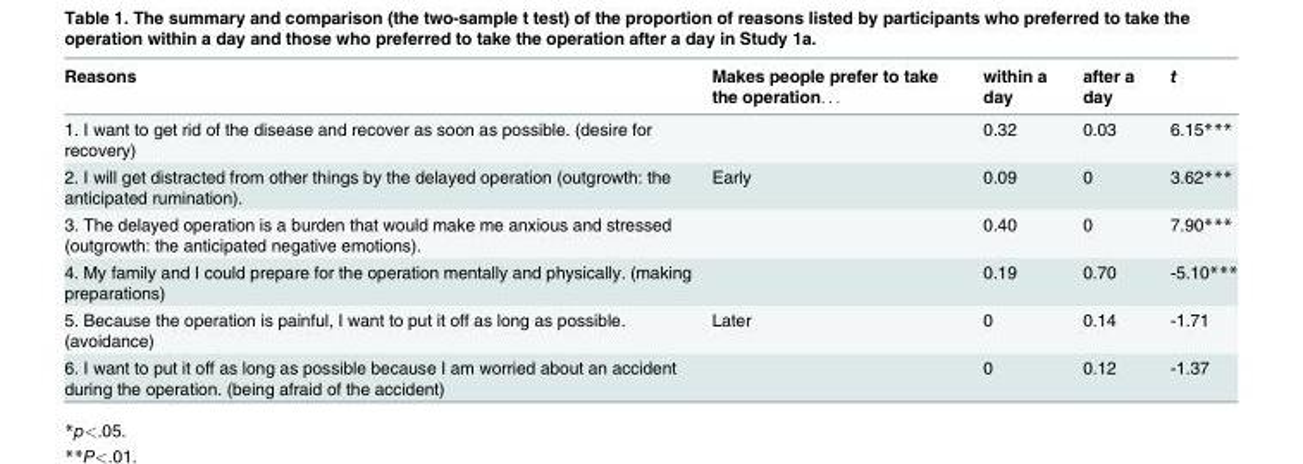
<table><thead><tr><td>Reasons</td><td>Makes people prefer to take the operation. . .</td><td>within a day</td><td>after a day</td><td>t</td></tr></thead><tbody><tr><td>1. I want to get rid of the disease and recover as soon as possible. (desire for recovery)</td><td></td><td>0.32</td><td>0.03</td><td>6.15***</td></tr><tr><td>2. I will get distracted from other things by the delayed operation (outgrowth: the anticipated rumination).</td><td>Early</td><td>0.09</td><td>0</td><td>3.62***</td></tr><tr><td>3. The delayed operation is a burden that would make me anxious and stressed (outgrowth: the anticipated negative emotions).</td><td></td><td>0.40</td><td>0</td><td>7.90***</td></tr><tr><td>4. My family and I could prepare for the operation mentally and physically. (making preparations)</td><td></td><td>0.19</td><td>0.70</td><td>-5.10***</td></tr><tr><td>5. Because the operation is painful, I want to put it off as long as possible. (avoidance)</td><td>Later</td><td>0</td><td>0.14</td><td>-1.71</td></tr><tr><td>6. I want to put it off as long as possible because I am worried about an accident during the operation. (being afraid of the accident)</td><td></td><td>0</td><td>0.12</td><td>-1.37</td></tr></tbody></table>